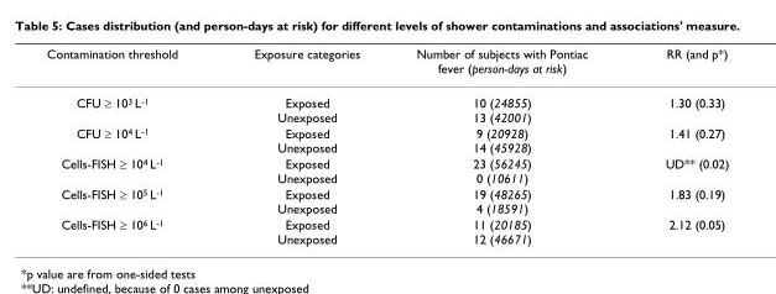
<table><thead><tr><td>Contamination threshold</td><td>Exposure categories</td><td>Number of subjects with Pontiac fever (person-days at risk)</td><td>RR (and p*)</td></tr></thead><tbody><tr><td>CFU ≥ 103 L-1</td><td>Exposed Unexposed</td><td>10 (24855) 13 (42001)</td><td>1.30 (0.33)</td></tr><tr><td>CFU ≥ 104 L-1</td><td>Exposed Unexposed</td><td>9 (20928) 14 (45928)</td><td>1.41 (0.27)</td></tr><tr><td>Cells-FISH ≥ 104 L-1</td><td>Exposed Unexposed</td><td>23 (56245) 0 (10611)</td><td>UD** (0.02)</td></tr><tr><td>Cells-FISH ≥ 105 L-1</td><td>Exposed Unexposed</td><td>19 (48265) 4 (18591)</td><td>1.83 (0.19)</td></tr><tr><td>Cells-FISH ≥ 106 L-1</td><td>Exposed Unexposed</td><td>11 (20185) 12 (46671)</td><td>2.12 (0.05)</td></tr></tbody></table>